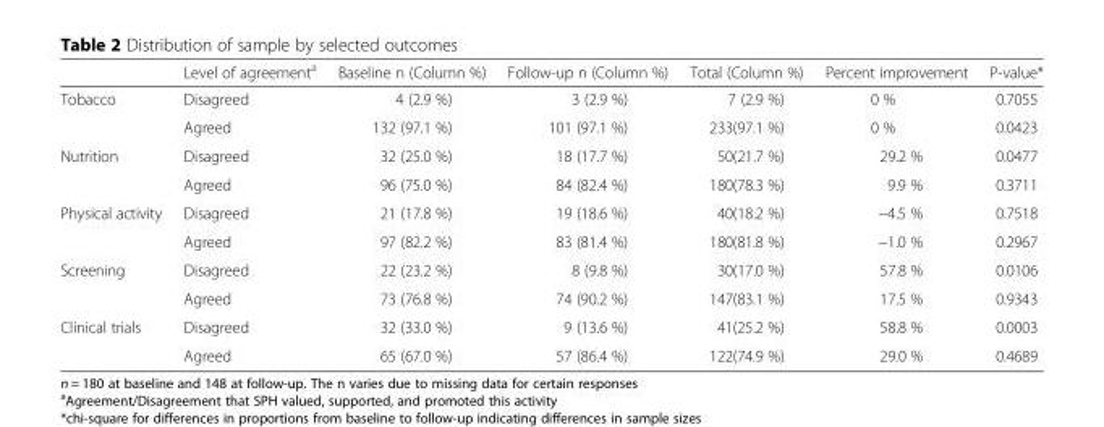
<table><thead><tr><td></td><td>Level of agreement<sup>a</sup></td><td>Baseline n (Column %)</td><td>Follow-up n (Column %)</td><td>Total (Column %)</td><td>Percent improvement</td><td>P-value*</td></tr></thead><tbody><tr><td rowspan="2">Tobacco</td><td>Disagreed</td><td>4 (2.9 %)</td><td>3 (2.9 %)</td><td>7 (2.9 %)</td><td>0 %</td><td>0.7055</td></tr><tr><td>Agreed</td><td>132 (97.1 %)</td><td>101 (97.1 %)</td><td>233(97.1 %)</td><td>0 %</td><td>0.0423</td></tr><tr><td rowspan="2">Nutrition</td><td>Disagreed</td><td>32 (25.0 %)</td><td>18 (17.7 %)</td><td>50(21.7 %)</td><td>29.2 %</td><td>0.0477</td></tr><tr><td>Agreed</td><td>96 (75.0 %)</td><td>84 (82.4 %)</td><td>180(78.3 %)</td><td>9.9 %</td><td>0.3711</td></tr><tr><td rowspan="2">Physical activity</td><td>Disagreed</td><td>21 (17.8 %)</td><td>19 (18.6 %)</td><td>40(18.2 %)</td><td>−4.5 %</td><td>0.7518</td></tr><tr><td>Agreed</td><td>97 (82.2 %)</td><td>83 (81.4 %)</td><td>180(81.8 %)</td><td>−1.0 %</td><td>0.2967</td></tr><tr><td rowspan="2">Screening</td><td>Disagreed</td><td>22 (23.2 %)</td><td>8 (9.8 %)</td><td>30(17.0 %)</td><td>57.8 %</td><td>0.0106</td></tr><tr><td>Agreed</td><td>73 (76.8 %)</td><td>74 (90.2 %)</td><td>147(83.1 %)</td><td>17.5 %</td><td>0.9343</td></tr><tr><td rowspan="2">Clinical trials</td><td>Disagreed</td><td>32 (33.0 %)</td><td>9 (13.6 %)</td><td>41(25.2 %)</td><td>58.8 %</td><td>0.0003</td></tr><tr><td>Agreed</td><td>65 (67.0 %)</td><td>57 (86.4 %)</td><td>122(74.9 %)</td><td>29.0 %</td><td>0.4689</td></tr></tbody></table>